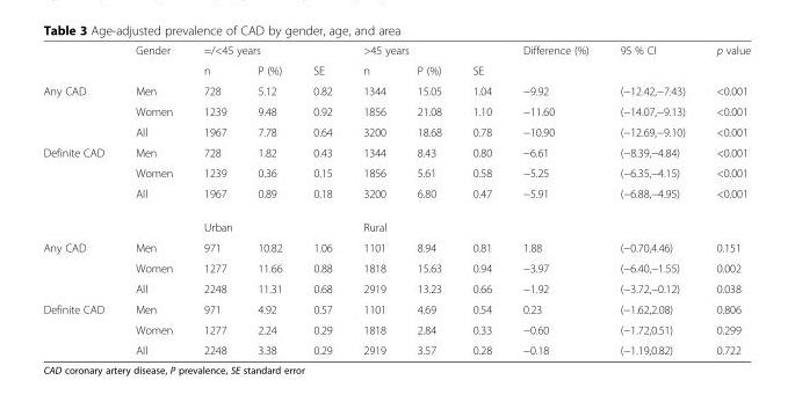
<table><thead><tr><td rowspan="2"></td><td rowspan="2">Gender</td><td colspan="3">=/&lt;45 years</td><td colspan="3">&gt;45 years</td><td rowspan="2">Difference (%)</td><td rowspan="2">95 % CI</td><td rowspan="2">p value</td></tr><tr><td>n</td><td>P (%)</td><td>SE</td><td>n</td><td>P (%)</td><td>SE</td></tr></thead><tbody><tr><td rowspan="3">Any CAD</td><td>Men</td><td>728</td><td>5.12</td><td>0.82</td><td>1344</td><td>15.05</td><td>1.04</td><td>−9.92</td><td>(−12.42,−7.43)</td><td>&lt;0.001</td></tr><tr><td>Women</td><td>1239</td><td>9.48</td><td>0.92</td><td>1856</td><td>21.08</td><td>1.10</td><td>−11.60</td><td>(−14.07,−9.13)</td><td>&lt;0.001</td></tr><tr><td>All</td><td>1967</td><td>7.78</td><td>0.64</td><td>3200</td><td>18.68</td><td>0.78</td><td>−10.90</td><td>(−12.69,−9.10)</td><td>&lt;0.001</td></tr><tr><td rowspan="4">Definite CAD</td><td>Men</td><td>728</td><td>1.82</td><td>0.43</td><td>1344</td><td>8.43</td><td>0.80</td><td>−6.61</td><td>(−8.39,−4.84)</td><td>&lt;0.001</td></tr><tr><td>Women</td><td>1239</td><td>0.36</td><td>0.15</td><td>1856</td><td>5.61</td><td>0.58</td><td>−5.25</td><td>(−6.35,−4.15)</td><td>&lt;0.001</td></tr><tr><td>All</td><td>1967</td><td>0.89</td><td>0.18</td><td>3200</td><td>6.80</td><td>0.47</td><td>−5.91</td><td>(−6.88,−4.95)</td><td>&lt;0.001</td></tr><tr><td></td><td colspan="3">Urban</td><td colspan="3">Rural</td><td></td><td></td><td></td></tr><tr><td rowspan="3">Any CAD</td><td>Men</td><td>971</td><td>10.82</td><td>1.06</td><td>1101</td><td>8.94</td><td>0.81</td><td>1.88</td><td>(−0.70,4.46)</td><td>0.151</td></tr><tr><td>Women</td><td>1277</td><td>11.66</td><td>0.88</td><td>1818</td><td>15.63</td><td>0.94</td><td>−3.97</td><td>(−6.40,−1.55)</td><td>0.002</td></tr><tr><td>All</td><td>2248</td><td>11.31</td><td>0.68</td><td>2919</td><td>13.23</td><td>0.66</td><td>−1.92</td><td>(−3.72,−0.12)</td><td>0.038</td></tr><tr><td rowspan="3">Definite CAD</td><td>Men</td><td>971</td><td>4.92</td><td>0.57</td><td>1101</td><td>4.69</td><td>0.54</td><td>0.23</td><td>(−1.62,2.08)</td><td>0.806</td></tr><tr><td>Women</td><td>1277</td><td>2.24</td><td>0.29</td><td>1818</td><td>2.84</td><td>0.33</td><td>−0.60</td><td>(−1.72,0.51)</td><td>0.299</td></tr><tr><td>All</td><td>2248</td><td>3.38</td><td>0.29</td><td>2919</td><td>3.57</td><td>0.28</td><td>−0.18</td><td>(−1.19,0.82)</td><td>0.722</td></tr></tbody></table>